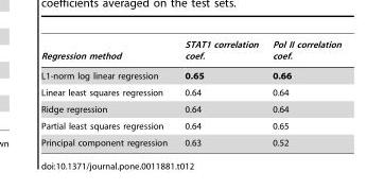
<table><thead><tr><td>Regression method</td><td>STAT1 correlation coef.</td><td>Pol II correlation coef.</td></tr></thead><tbody><tr><td>L1-norm log linear regression</td><td>0.65</td><td>0.66</td></tr><tr><td>Linear least squares regression</td><td>0.64</td><td>0.64</td></tr><tr><td>Ridge regression</td><td>0.64</td><td>0.64</td></tr><tr><td>Partial least squares regression</td><td>0.64</td><td>0.65</td></tr><tr><td>Principal component regression</td><td>0.63</td><td>0.52</td></tr></tbody></table>